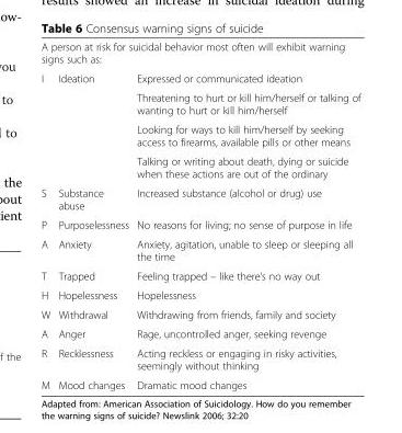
<table><tbody><tr><td colspan="3">A person at risk for suicidal behavior most often will exhibit warning signs such as:</td></tr><tr><td rowspan="4">I</td><td rowspan="4">Ideation</td><td>Expressed or communicated ideation</td></tr><tr><td>Threatening to hurt or kill him/herself or talking of wanting to hurt or kill him/herself</td></tr><tr><td>Looking for ways to kill him/herself by seeking access to firearms, available pills or other means</td></tr><tr><td>Talking or writing about death, dying or suicide when these actions are out of the ordinary</td></tr><tr><td>S</td><td>Substance abuse</td><td>Increased substance (alcohol or drug) use</td></tr><tr><td>P</td><td>Purposelessness</td><td>No reasons for living; no sense of purpose in life</td></tr><tr><td>A</td><td>Anxiety</td><td>Anxiety, agitation, unable to sleep or sleeping all the time</td></tr><tr><td>T</td><td>Trapped</td><td>Feeling trapped – like there’s no way out</td></tr><tr><td>H</td><td>Hopelessness</td><td>Hopelessness</td></tr><tr><td>W</td><td>Withdrawal</td><td>Withdrawing from friends, family and society</td></tr><tr><td>A</td><td>Anger</td><td>Rage, uncontrolled anger, seeking revenge</td></tr><tr><td>R</td><td>Recklessness</td><td>Acting reckless or engaging in risky activities, seemingly without thinking</td></tr><tr><td>M</td><td>Mood changes</td><td>Dramatic mood changes</td></tr></tbody></table>